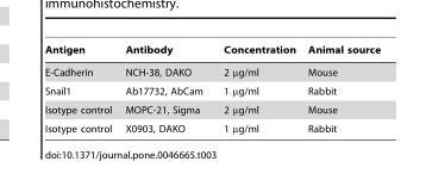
<table><thead><tr><td>Antigen</td><td>Antibody</td><td>Concentration</td><td>Animal source</td></tr></thead><tbody><tr><td>E-Cadherin</td><td>NCH-38, DAKO</td><td>2 µg/ml</td><td>Mouse</td></tr><tr><td>Snail1</td><td>Ab17732, AbCam</td><td>1 µg/ml</td><td>Rabbit</td></tr><tr><td>Isotype control</td><td>MOPC-21, Sigma</td><td>2 µg/ml</td><td>Mouse</td></tr><tr><td>Isotype control</td><td>X0903, DAKO</td><td>1 µg/ml</td><td>Rabbit</td></tr></tbody></table>